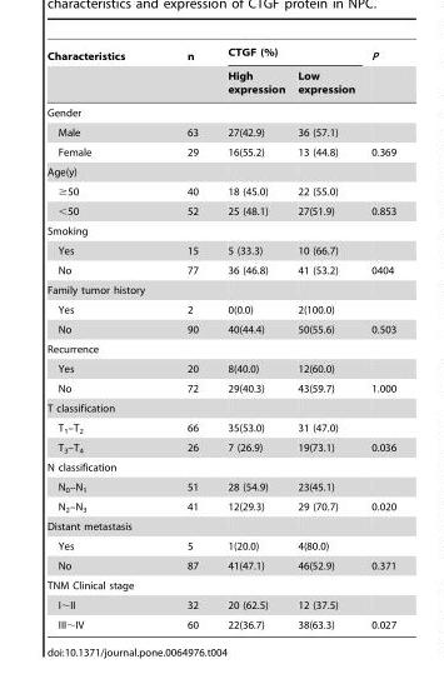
<table><thead><tr><td rowspan="2">Characteristics</td><td rowspan="2">n</td><td colspan="2">CTGF (%)</td><td rowspan="2">P</td></tr><tr><td>High expression</td><td>Low expression</td></tr></thead><tbody><tr><td colspan="5">Gender</td></tr><tr><td>Male</td><td>63</td><td>27(42.9)</td><td>36 (57.1)</td><td></td></tr><tr><td>Female</td><td>29</td><td>16(55.2)</td><td>13 (44.8)</td><td>0.369</td></tr><tr><td colspan="5">Age(y)</td></tr><tr><td>≥50</td><td>40</td><td>18 (45.0)</td><td>22 (55.0)</td><td></td></tr><tr><td>&lt;50</td><td>52</td><td>25 (48.1)</td><td>27(51.9)</td><td>0.853</td></tr><tr><td colspan="5">Smoking</td></tr><tr><td>Yes</td><td>15</td><td>5 (33.3)</td><td>10 (66.7)</td><td></td></tr><tr><td>No</td><td>77</td><td>36 (46.8)</td><td>41 (53.2)</td><td>0404</td></tr><tr><td colspan="5">Family tumor history</td></tr><tr><td>Yes</td><td>2</td><td>0(0.0)</td><td>2(100.0)</td><td></td></tr><tr><td>No</td><td>90</td><td>40(44.4)</td><td>50(55.6)</td><td>0.503</td></tr><tr><td colspan="5">Recurrence</td></tr><tr><td>Yes</td><td>20</td><td>8(40.0)</td><td>12(60.0)</td><td></td></tr><tr><td>No</td><td>72</td><td>29(40.3)</td><td>43(59.7)</td><td>1.000</td></tr><tr><td colspan="5">T classification</td></tr><tr><td>T<sub>1</sub>–T<sub>2</sub></td><td>66</td><td>35(53.0)</td><td>31 (47.0)</td><td></td></tr><tr><td>T<sub>3</sub>–T<sub>4</sub></td><td>26</td><td>7 (26.9)</td><td>19(73.1)</td><td>0.036</td></tr><tr><td colspan="5">N classification</td></tr><tr><td>N<sub>0</sub>–N<sub>1</sub></td><td>51</td><td>28 (54.9)</td><td>23(45.1)</td><td></td></tr><tr><td>N<sub>2</sub>–N<sub>3</sub></td><td>41</td><td>12(29.3)</td><td>29 (70.7)</td><td>0.020</td></tr><tr><td colspan="5">Distant metastasis</td></tr><tr><td>Yes</td><td>5</td><td>1(20.0)</td><td>4(80.0)</td><td></td></tr><tr><td>No</td><td>87</td><td>41(47.1)</td><td>46(52.9)</td><td>0.371</td></tr><tr><td colspan="5">TNM Clinical stage</td></tr><tr><td>I∼II</td><td>32</td><td>20 (62.5)</td><td>12 (37.5)</td><td></td></tr><tr><td>III∼IV</td><td>60</td><td>22(36.7)</td><td>38(63.3)</td><td>0.027</td></tr></tbody></table>